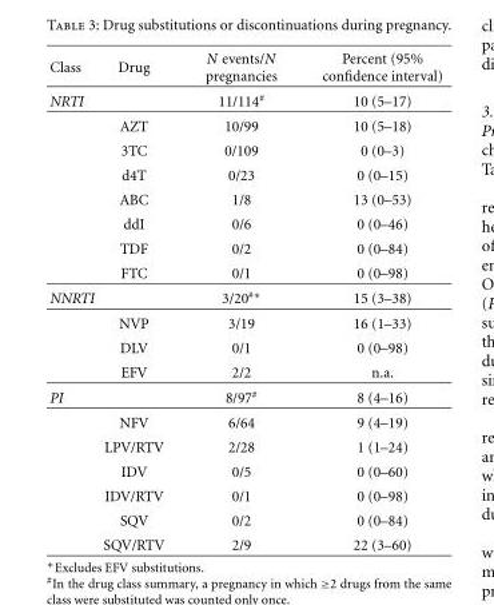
<table><thead><tr><td>Class</td><td>Drug</td><td>N events/N pregnancies</td><td>Percent (95% confidence interval)</td></tr></thead><tbody><tr><td rowspan="8">NRTI</td><td></td><td>11/114<sup>#</sup></td><td>10 (5–17)</td></tr><tr><td>AZT</td><td>10/99</td><td>10 (5–18)</td></tr><tr><td>3TC</td><td>0/109</td><td>0 (0–3)</td></tr><tr><td>d4T</td><td>0/23</td><td>0 (0–15)</td></tr><tr><td>ABC</td><td>1/8</td><td>13 (0–53)</td></tr><tr><td>ddI</td><td>0/6</td><td>0 (0–46)</td></tr><tr><td>TDF</td><td>0/2</td><td>0 (0–84)</td></tr><tr><td>FTC</td><td>0/1</td><td>0 (0–98)</td></tr><tr><td rowspan="4">NNRTI</td><td></td><td>3/20<sup>#∗</sup></td><td>15 (3–38)</td></tr><tr><td>NVP</td><td>3/19</td><td>16 (1–33)</td></tr><tr><td>DLV</td><td>0/1</td><td>0 (0–98)</td></tr><tr><td>EFV</td><td>2/2</td><td>n.a.</td></tr><tr><td rowspan="7">PI</td><td></td><td>8/97<sup>#</sup></td><td>8 (4–16)</td></tr><tr><td>NFV</td><td>6/64</td><td>9 (4–19)</td></tr><tr><td>LPV/RTV</td><td>2/28</td><td>1 (1–24)</td></tr><tr><td>IDV</td><td>0/5</td><td>0 (0–60)</td></tr><tr><td>IDV/RTV</td><td>0/1</td><td>0 (0–98)</td></tr><tr><td>SQV</td><td>0/2</td><td>0 (0–84)</td></tr><tr><td>SQV/RTV</td><td>2/9</td><td>22 (3–60)</td></tr></tbody></table>